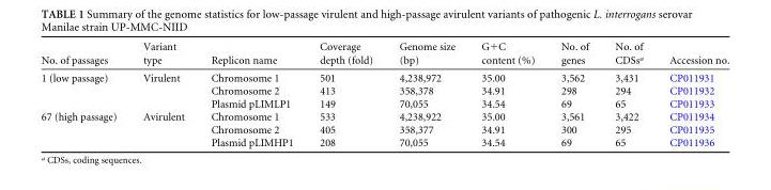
<table><thead><tr><td>No. of passages</td><td>Variant type</td><td>Replicon name</td><td>Coverage depth (fold)</td><td>Genome size (bp)</td><td>G+C content (%)</td><td>No. of genes</td><td>No. of CDSs<sup>a</sup></td><td>Accession no.</td></tr></thead><tbody><tr><td rowspan="3">1 (low passage)</td><td rowspan="3">Virulent</td><td>Chromosome 1</td><td>501</td><td>4,238,972</td><td>35.00</td><td>3,562</td><td>3,431</td><td>CP011931</td></tr><tr><td>Chromosome 2</td><td>413</td><td>358,378</td><td>34.91</td><td>298</td><td>294</td><td>CP011932</td></tr><tr><td>Plasmid pLIMLP1</td><td>149</td><td>70,055</td><td>34.54</td><td>69</td><td>65</td><td>CP011933</td></tr><tr><td rowspan="3">67 (high passage)</td><td rowspan="3">Avirulent</td><td>Chromosome 1</td><td>533</td><td>4,238,922</td><td>35.00</td><td>3,561</td><td>3,422</td><td>CP011934</td></tr><tr><td>Chromosome 2</td><td>405</td><td>358,377</td><td>34.91</td><td>300</td><td>295</td><td>CP011935</td></tr><tr><td>Plasmid pLIMHP1</td><td>208</td><td>70,055</td><td>34.54</td><td>69</td><td>65</td><td>CP011936</td></tr></tbody></table>